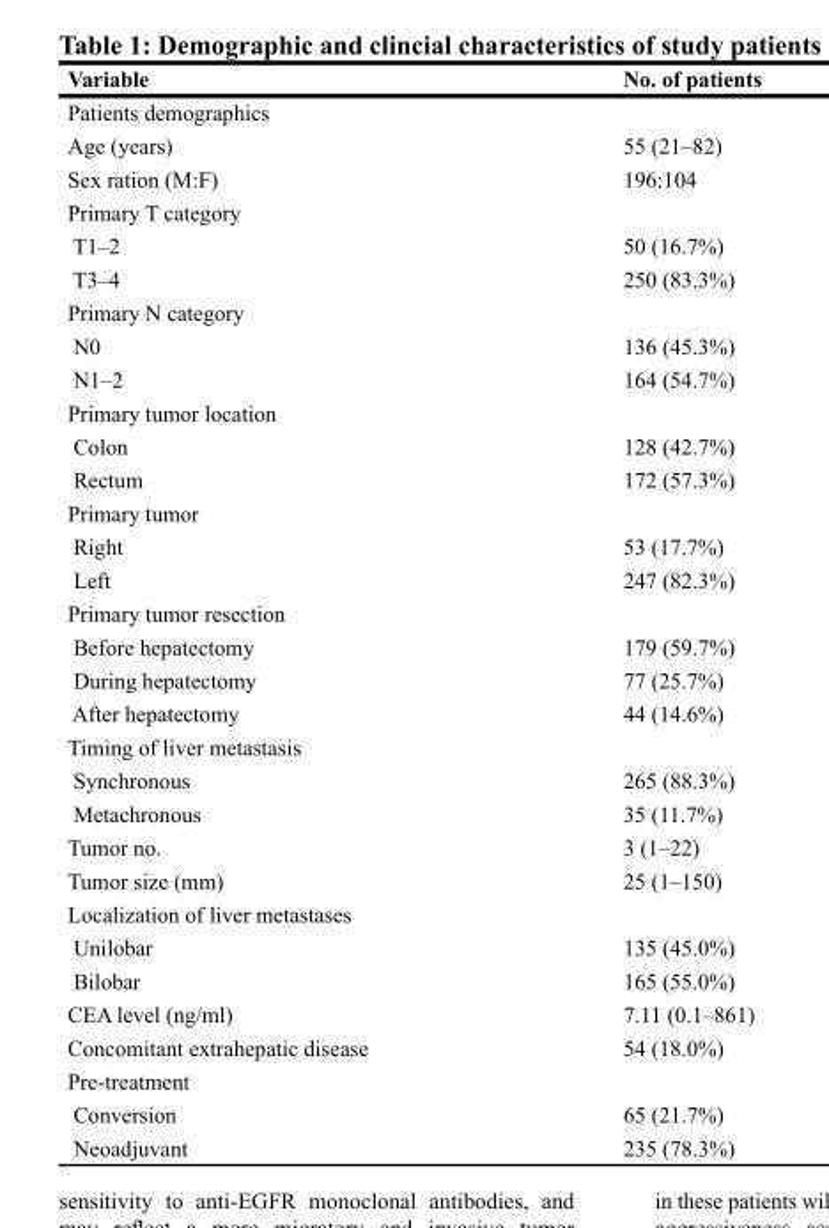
<table><thead><tr><td>Variable</td><td>No. of patients</td></tr></thead><tbody><tr><td colspan="2">Patients demographics</td></tr><tr><td>Age (years)</td><td>55 (21–82)</td></tr><tr><td>Sex ration (M:F)</td><td>196:104</td></tr><tr><td colspan="2">Primary T category</td></tr><tr><td>T1–2</td><td>50 (16.7%)</td></tr><tr><td>T3–4</td><td>250 (83.3%)</td></tr><tr><td colspan="2">Primary N category</td></tr><tr><td>N0</td><td>136 (45.3%)</td></tr><tr><td>N1–2</td><td>164 (54.7%)</td></tr><tr><td colspan="2">Primary tumor location</td></tr><tr><td>Colon</td><td>128 (42.7%)</td></tr><tr><td>Rectum</td><td>172 (57.3%)</td></tr><tr><td colspan="2">Primary tumor</td></tr><tr><td>Right</td><td>53 (17.7%)</td></tr><tr><td>Left</td><td>247 (82.3%)</td></tr><tr><td colspan="2">Primary tumor resection</td></tr><tr><td>Before hepatectomy</td><td>179 (59.7%)</td></tr><tr><td>During hepatectomy</td><td>77 (25.7%)</td></tr><tr><td>After hepatectomy</td><td>44 (14.6%)</td></tr><tr><td colspan="2">Timing of liver metastasis</td></tr><tr><td>Synchronous</td><td>265 (88.3%)</td></tr><tr><td>Metachronous</td><td>35 (11.7%)</td></tr><tr><td>Tumor no.</td><td>3 (1–22)</td></tr><tr><td>Tumor size (mm)</td><td>25 (1–150)</td></tr><tr><td colspan="2">Localization of liver metastases</td></tr><tr><td>Unilobar</td><td>135 (45.0%)</td></tr><tr><td>Bilobar</td><td>165 (55.0%)</td></tr><tr><td>CEA level (ng/ml)</td><td>7.11 (0.1–861)</td></tr><tr><td>Concomitant extrahepatic disease</td><td>54 (18.0%)</td></tr><tr><td colspan="2">Pre-treatment</td></tr><tr><td>Conversion</td><td>65 (21.7%)</td></tr><tr><td>Neoadjuvant</td><td>235 (78.3%)</td></tr></tbody></table>